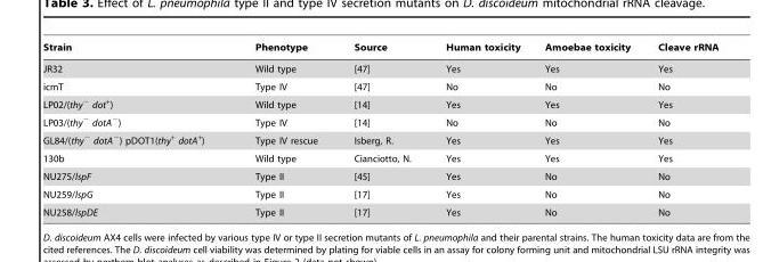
<table><thead><tr><td>Strain</td><td>Phenotype</td><td>Source</td><td>Human toxicity</td><td>Amoebae toxicity</td><td>Cleave rRNA</td></tr></thead><tbody><tr><td>JR32</td><td>Wild type</td><td>[47]</td><td>Yes</td><td>Yes</td><td>Yes</td></tr><tr><td>icmT</td><td>Type IV</td><td>[47]</td><td>No</td><td>No</td><td>No</td></tr><tr><td>LP02/(thy<sup>−</sup> dot<sup>+</sup>)</td><td>Wild type</td><td>[14]</td><td>Yes</td><td>Yes</td><td>Yes</td></tr><tr><td>LP03/(thy<sup>−</sup> dotA<sup>−</sup>)</td><td>Type IV</td><td>[14]</td><td>No</td><td>No</td><td>No</td></tr><tr><td>GL84/(thy<sup>−</sup> dotA<sup>−</sup>) pDOT1(thy<sup>+</sup> dotA<sup>+</sup>)</td><td>Type IV rescue</td><td>Isberg, R.</td><td>Yes</td><td>Yes</td><td>Yes</td></tr><tr><td>130b</td><td>Wild type</td><td>Cianciotto, N.</td><td>Yes</td><td>Yes</td><td>Yes</td></tr><tr><td>NU275/lspF</td><td>Type II</td><td>[45]</td><td>Yes</td><td>No</td><td>No</td></tr><tr><td>NU259/lspG</td><td>Type II</td><td>[17]</td><td>Yes</td><td>No</td><td>No</td></tr><tr><td>NU258/lspDE</td><td>Type II</td><td>[17]</td><td>Yes</td><td>No</td><td>No</td></tr></tbody></table>